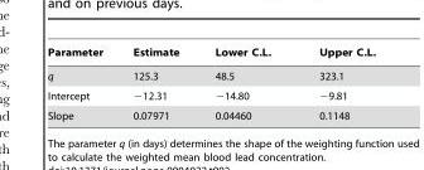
<table><thead><tr><td>Parameter</td><td>Estimate</td><td>Lower C.L.</td><td>Upper C.L.</td></tr></thead><tbody><tr><td>q</td><td>125.3</td><td>48.5</td><td>323.1</td></tr><tr><td>Intercept</td><td>−12.31</td><td>−14.80</td><td>−9.81</td></tr><tr><td>Slope</td><td>0.07971</td><td>0.04460</td><td>0.1148</td></tr></tbody></table>